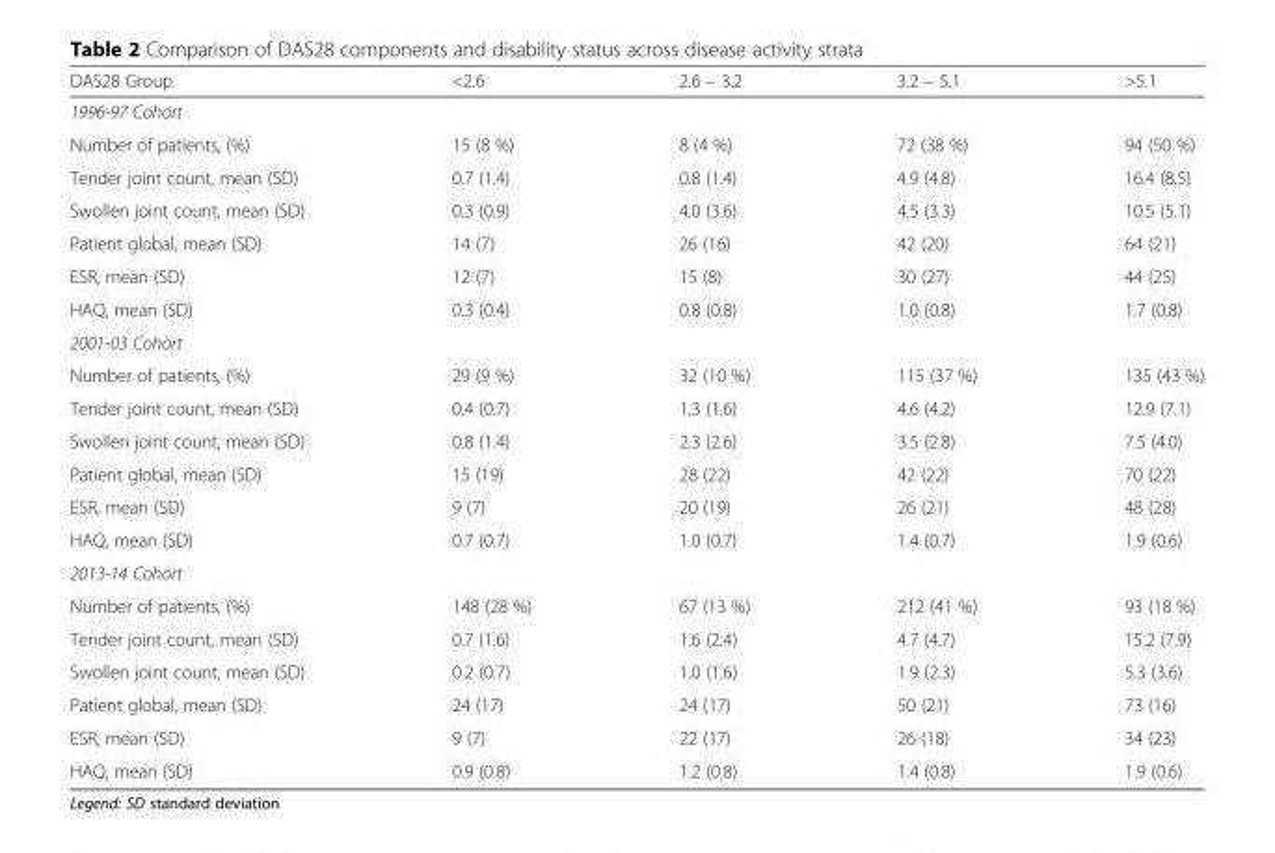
<table><thead><tr><td>DAS28 Group</td><td>&lt;2.6</td><td>2.6 – 3.2</td><td>3.2 – 5.1</td><td>&gt;5.1</td></tr></thead><tbody><tr><td colspan="5">1996-97 Cohort</td></tr><tr><td>Number of patients, (%)</td><td>15 (8 %)</td><td>8 (4 %)</td><td>72 (38 %)</td><td>94 (50 %)</td></tr><tr><td>Tender joint count, mean (SD)</td><td>0.7 (1.4)</td><td>0.8 (1.4)</td><td>4.9 (4.8)</td><td>16.4 (8.5)</td></tr><tr><td>Swollen joint count, mean (SD)</td><td>0.3 (0.9)</td><td>4.0 (3.6)</td><td>4.5 (3.3)</td><td>10.5 (5.1)</td></tr><tr><td>Patient global, mean (SD)</td><td>14 (7)</td><td>26 (16)</td><td>42 (20)</td><td>64 (21)</td></tr><tr><td>ESR, mean (SD)</td><td>12 (7)</td><td>15 (8)</td><td>30 (27)</td><td>44 (25)</td></tr><tr><td>HAQ, mean (SD)</td><td>0.3 (0.4)</td><td>0.8 (0.8)</td><td>1.0 (0.8)</td><td>1.7 (0.8)</td></tr><tr><td colspan="5">2001-03 Cohort</td></tr><tr><td>Number of patients, (%)</td><td>29 (9 %)</td><td>32 (10 %)</td><td>115 (37 %)</td><td>135 (43 %)</td></tr><tr><td>Tender joint count, mean (SD)</td><td>0.4 (0.7)</td><td>1.3 (1.6)</td><td>4.6 (4.2)</td><td>12.9 (7.1)</td></tr><tr><td>Swollen joint count, mean (SD)</td><td>0.8 (1.4)</td><td>2.3 (2.6)</td><td>3.5 (2.8)</td><td>7.5 (4.0)</td></tr><tr><td>Patient global, mean (SD)</td><td>15 (19)</td><td>28 (22)</td><td>42 (22)</td><td>70 (22)</td></tr><tr><td>ESR, mean (SD)</td><td>9 (7)</td><td>20 (19)</td><td>26 (21)</td><td>48 (28)</td></tr><tr><td>HAQ, mean (SD)</td><td>0.7 (0.7)</td><td>1.0 (0.7)</td><td>1.4 (0.7)</td><td>1.9 (0.6)</td></tr><tr><td colspan="5">2013-14 Cohort</td></tr><tr><td>Number of patients, (%)</td><td>148 (28 %)</td><td>67 (13 %)</td><td>212 (41 %)</td><td>93 (18 %)</td></tr><tr><td>Tender joint count, mean (SD)</td><td>0.7 (1.6)</td><td>1.6 (2.4)</td><td>4.7 (4.7)</td><td>15.2 (7.9)</td></tr><tr><td>Swollen joint count, mean (SD)</td><td>0.2 (0.7)</td><td>1.0 (1.6)</td><td>1.9 (2.3)</td><td>5.3 (3.6)</td></tr><tr><td>Patient global, mean (SD)</td><td>24 (17)</td><td>24 (17)</td><td>50 (21)</td><td>73 (16)</td></tr><tr><td>ESR, mean (SD)</td><td>9 (7)</td><td>22 (17)</td><td>26 (18)</td><td>34 (23)</td></tr><tr><td>HAQ, mean (SD)</td><td>0.9 (0.8)</td><td>1.2 (0.8)</td><td>1.4 (0.8)</td><td>1.9 (0.6)</td></tr></tbody></table>